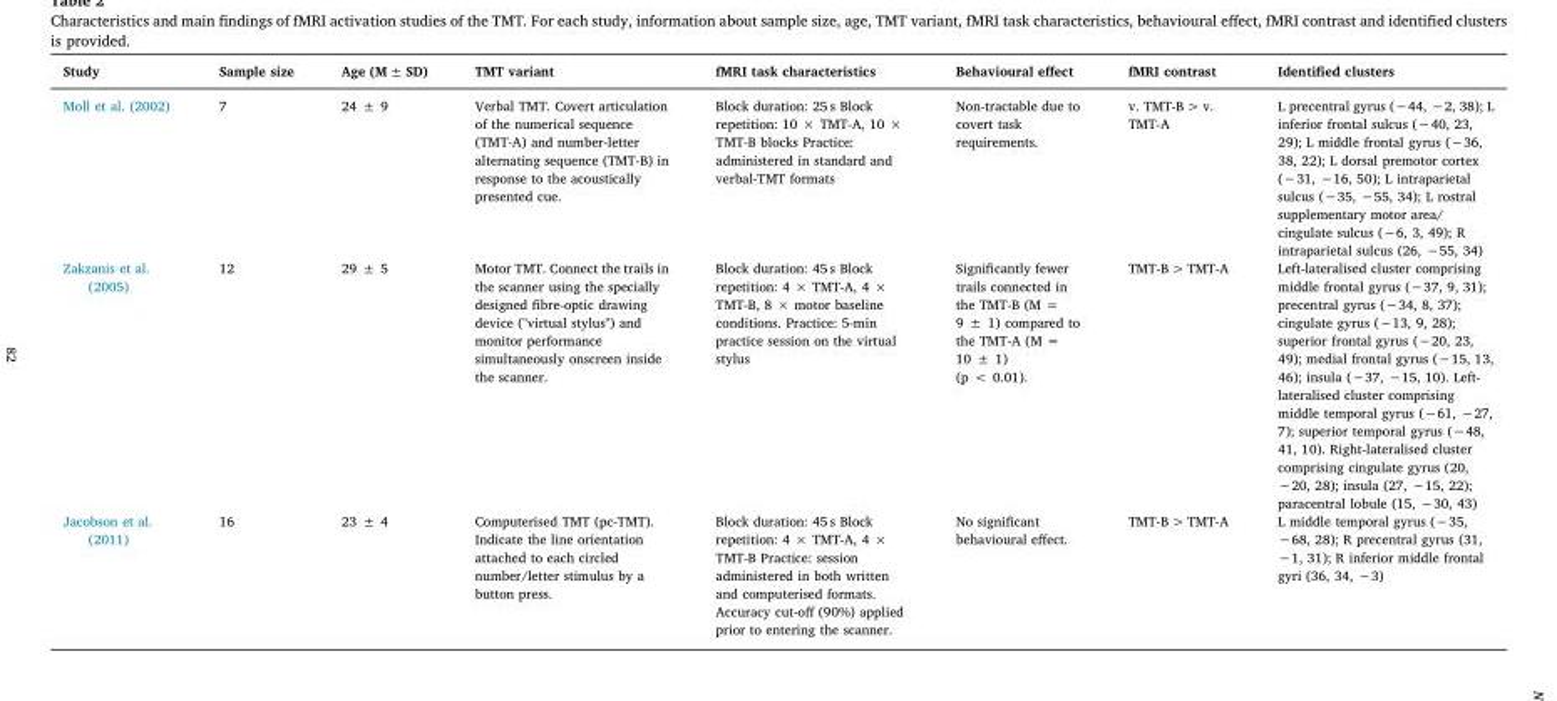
<table><thead><tr><td>Study</td><td>Sample size</td><td>Age (M ± SD)</td><td>TMT variant</td><td>fMRI task characteristics</td><td>Behavioural effect</td><td>fMRI contrast</td><td>Identified clusters</td></tr></thead><tbody><tr><td>Moll et al. (2002)</td><td>7</td><td>24 ± 9</td><td>Verbal TMT. Covert articulation of the numerical sequence (TMT-A) and number-letter alternating sequence (TMT-B) in response to the acoustically presented cue.</td><td>Block duration: 25 s Block repetition: 10 × TMT-A, 10 × TMT-B blocks Practice: administered in standard and verbal-TMT formats</td><td>Non-tractable due to covert task requirements.</td><td>v. TMT-B &gt; v. TMT-A</td><td>L precentral gyrus (−44, −2, 38); L inferior frontal sulcus (−40, 23, 29); L middle frontal gyrus (−36, 38, 22); L dorsal premotor cortex (−31, −16, 50); L intraparietal sulcus (−35, −55, 34); L rostral supplementary motor area/ cingulate sulcus (−6, 3, 49); R intraparietal sulcus (26, −55, 34)</td></tr><tr><td>Zakzanis et al. (2005)</td><td>12</td><td>29 ± 5</td><td>Motor TMT. Connect the trails in the scanner using the specially designed fibre-optic drawing device (&quot;virtual stylus&quot;) and monitor performance simultaneously onscreen inside the scanner.</td><td>Block duration: 45 s Block repetition: 4 × TMT-A, 4 × TMT-B, 8 × motor baseline conditions. Practice: 5-min practice session on the virtual stylus</td><td>Significantly fewer trails connected in the TMT-B (M = 9 ± 1) compared to the TMT-A (M = 10 ± 1) (p &lt; 0.01).</td><td>TMT-B &gt; TMT-A</td><td>Left-lateralised cluster comprising middle frontal gyrus (−37, 9, 31); precentral gyrus (−34, 8, 37); cingulate gyrus (−13, 9, 28); superior frontal gyrus (−20, 23, 49); medial frontal gyrus (−15, 13, 46); insula (−37, −15, 10). Left- lateralised cluster comprising middle temporal gyrus (−61, −27, 7); superior temporal gyrus (−48, 41, 10). Right-lateralised cluster comprising cingulate gyrus (20, −20, 28); insula (27, −15, 22); paracentral lobule (15, −30, 43)</td></tr><tr><td>Jacobson et al. (2011)</td><td>16</td><td>23 ± 4</td><td>Computerised TMT (pc-TMT). Indicate the line orientation attached to each circled number/letter stimulus by a button press.</td><td>Block duration: 45 s Block repetition: 4 × TMT-A, 4 × TMT-B Practice: session administered in both written and computerised formats. Accuracy cut-off (90%) applied prior to entering the scanner.</td><td>No significant behavioural effect.</td><td>TMT-B &gt; TMT-A</td><td>L middle temporal gyrus (−35, −68, 28); R precentral gyrus (31, −1, 31); R inferior middle frontal gyri (36, 34, −3)</td></tr></tbody></table>